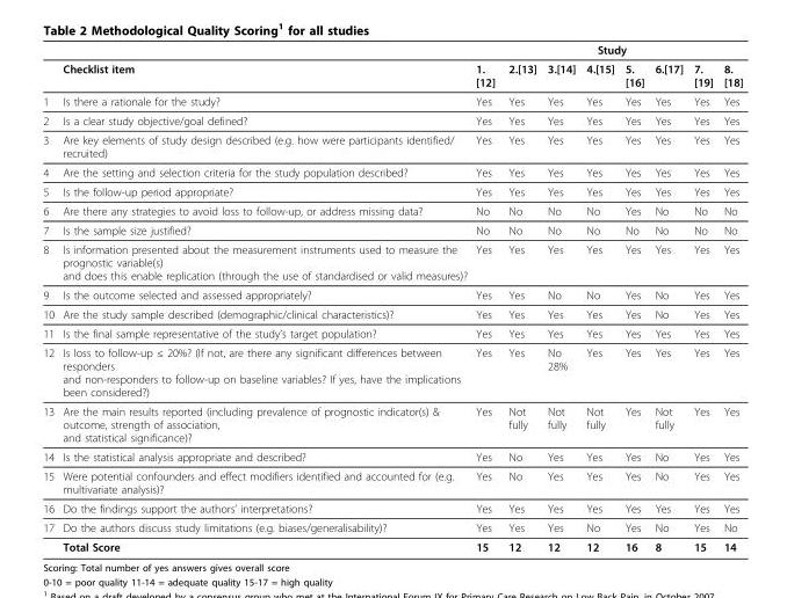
<table><thead><tr><td rowspan="2"></td><td rowspan="2">Checklist item</td><td colspan="8">Study</td></tr><tr><td>1. [12]</td><td>2.[13]</td><td>3.[14]</td><td>4.[15]</td><td>5. [16]</td><td>6.[17]</td><td>7. [19]</td><td>8. [18]</td></tr></thead><tbody><tr><td>1</td><td>Is there a rationale for the study?</td><td>Yes</td><td>Yes</td><td>Yes</td><td>Yes</td><td>Yes</td><td>Yes</td><td>Yes</td><td>Yes</td></tr><tr><td>2</td><td>Is a clear study objective/goal defined?</td><td>Yes</td><td>Yes</td><td>Yes</td><td>Yes</td><td>Yes</td><td>Yes</td><td>Yes</td><td>Yes</td></tr><tr><td>3</td><td>Are key elements of study design described (e.g. how were participants identified/ recruited)</td><td>Yes</td><td>Yes</td><td>Yes</td><td>Yes</td><td>Yes</td><td>Yes</td><td>Yes</td><td>Yes</td></tr><tr><td>4</td><td>Are the setting and selection criteria for the study population described?</td><td>Yes</td><td>Yes</td><td>Yes</td><td>Yes</td><td>Yes</td><td>Yes</td><td>Yes</td><td>Yes</td></tr><tr><td>5</td><td>Is the follow-up period appropriate?</td><td>Yes</td><td>Yes</td><td>Yes</td><td>Yes</td><td>Yes</td><td>Yes</td><td>Yes</td><td>Yes</td></tr><tr><td>6</td><td>Are there any strategies to avoid loss to follow-up, or address missing data?</td><td>No</td><td>No</td><td>No</td><td>No</td><td>Yes</td><td>No</td><td>No</td><td>No</td></tr><tr><td>7</td><td>Is the sample size justified?</td><td>No</td><td>No</td><td>No</td><td>No</td><td>No</td><td>No</td><td>No</td><td>No</td></tr><tr><td>8</td><td>Is information presented about the measurement instruments used to measure the prognostic variable(s) and does this enable replication (through the use of standardised or valid measures)?</td><td>Yes</td><td>Yes</td><td>Yes</td><td>Yes</td><td>Yes</td><td>Yes</td><td>Yes</td><td>Yes</td></tr><tr><td>9</td><td>Is the outcome selected and assessed appropriately?</td><td>Yes</td><td>Yes</td><td>No</td><td>No</td><td>Yes</td><td>No</td><td>Yes</td><td>Yes</td></tr><tr><td>10</td><td>Are the study sample described (demographic/clinical characteristics)?</td><td>Yes</td><td>Yes</td><td>Yes</td><td>Yes</td><td>Yes</td><td>No</td><td>Yes</td><td>Yes</td></tr><tr><td>11</td><td>Is the final sample representative of the study’s target population?</td><td>Yes</td><td>Yes</td><td>Yes</td><td>Yes</td><td>Yes</td><td>Yes</td><td>Yes</td><td>Yes</td></tr><tr><td>12</td><td>Is loss to follow-up ≤ 20%? (If not, are there any significant differences between responders and non-responders to follow-up on baseline variables? If yes, have the implications been considered?)</td><td>Yes</td><td>Yes</td><td>No 28%</td><td>Yes</td><td>Yes</td><td>Yes</td><td>Yes</td><td>Yes</td></tr><tr><td>13</td><td>Are the main results reported (including prevalence of prognostic indicator(s) &amp; outcome, strength of association, and statistical significance)?</td><td>Yes</td><td>Not fully</td><td>Not fully</td><td>Not fully</td><td>Yes</td><td>Not fully</td><td>Yes</td><td>Yes</td></tr><tr><td>14</td><td>Is the statistical analysis appropriate and described?</td><td>Yes</td><td>No</td><td>Yes</td><td>Yes</td><td>Yes</td><td>No</td><td>Yes</td><td>Yes</td></tr><tr><td>15</td><td>Were potential confounders and effect modifiers identified and accounted for (e.g. multivariate analysis)?</td><td>Yes</td><td>No</td><td>Yes</td><td>Yes</td><td>Yes</td><td>No</td><td>Yes</td><td>Yes</td></tr><tr><td>16</td><td>Do the findings support the authors’ interpretations?</td><td>Yes</td><td>Yes</td><td>Yes</td><td>Yes</td><td>Yes</td><td>Yes</td><td>Yes</td><td>Yes</td></tr><tr><td rowspan="2">17</td><td>Do the authors discuss study limitations (e.g. biases/generalisability)?</td><td>Yes</td><td>Yes</td><td>Yes</td><td>No</td><td>Yes</td><td>No</td><td>Yes</td><td>No</td></tr><tr><td>Total Score</td><td>15</td><td>12</td><td>12</td><td>12</td><td>16</td><td>8</td><td>15</td><td>14</td></tr></tbody></table>